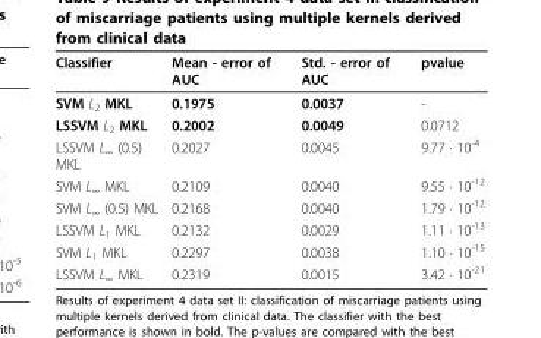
<table><thead><tr><td>Classifier</td><td>Mean - error of AUC</td><td>Std. - error of AUC</td><td>pvalue</td></tr></thead><tbody><tr><td>SVM L<sub>2</sub> MKL</td><td>0.1975</td><td>0.0037</td><td>-</td></tr><tr><td>LSSVM L<sub>2</sub> MKL</td><td>0.2002</td><td>0.0049</td><td>0.0712</td></tr><tr><td>LSSVM L<sub>∞</sub> (0.5) MKL</td><td>0.2027</td><td>0.0045</td><td>9.77 · 10<sup>-4</sup></td></tr><tr><td>SVM L<sub>∞</sub> MKL</td><td>0.2109</td><td>0.0040</td><td>9.55 · 10<sup>-12</sup></td></tr><tr><td>SVM L<sub>∞</sub> (0.5) MKL</td><td>0.2168</td><td>0.0040</td><td>1.79 · 10<sup>-12</sup></td></tr><tr><td>LSSVM L<sub>1</sub> MKL</td><td>0.2132</td><td>0.0029</td><td>1.11 · 10<sup>-13</sup></td></tr><tr><td>SVM L<sub>1</sub> MKL</td><td>0.2297</td><td>0.0038</td><td>1.10 · 10<sup>-15</sup></td></tr><tr><td>LSSVM L<sub>∞</sub> MKL</td><td>0.2319</td><td>0.0015</td><td>3.42 · 10<sup>-21</sup></td></tr></tbody></table>